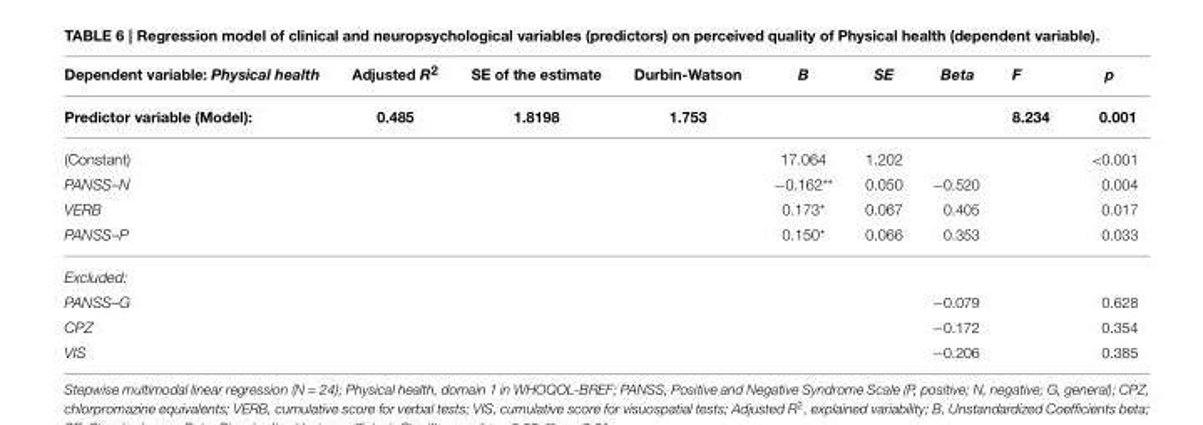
<table><thead><tr><td>Dependent variable: Physical health</td><td>Adjusted R<sup>2</sup></td><td>SE of the estimate</td><td>Durbin-Watson</td><td>B</td><td>SE</td><td>Beta</td><td>F</td><td>p</td></tr></thead><tbody><tr><td>Predictor variable (Model):</td><td>0.485</td><td>1.8198</td><td>1.753</td><td></td><td></td><td></td><td>8.234</td><td>0.001</td></tr><tr><td>(Constant)</td><td></td><td></td><td></td><td>17.064</td><td>1.202</td><td></td><td></td><td>&lt;0.001</td></tr><tr><td>PANSS–N</td><td></td><td></td><td></td><td>−0.162**</td><td>0.050</td><td>−0.520</td><td></td><td>0.004</td></tr><tr><td>VERB</td><td></td><td></td><td></td><td>0.173*</td><td>0.067</td><td>0.405</td><td></td><td>0.017</td></tr><tr><td>PANSS–P</td><td></td><td></td><td></td><td>0.150*</td><td>0.066</td><td>0.353</td><td></td><td>0.033</td></tr><tr><td colspan="9">Excluded:</td></tr><tr><td>PANSS–G</td><td></td><td></td><td></td><td></td><td></td><td>−0.079</td><td></td><td>0.628</td></tr><tr><td>CPZ</td><td></td><td></td><td></td><td></td><td></td><td>−0.172</td><td></td><td>0.354</td></tr><tr><td>VIS</td><td></td><td></td><td></td><td></td><td></td><td>−0.206</td><td></td><td>0.385</td></tr></tbody></table>